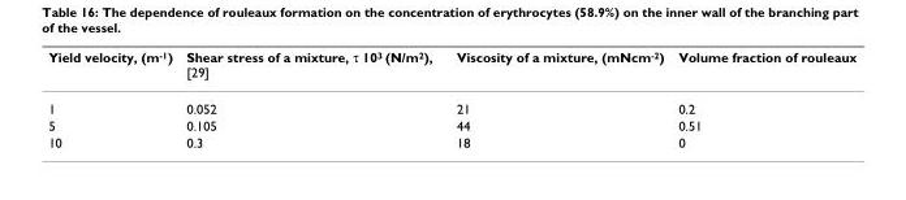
<table><thead><tr><td>Yield velocity, (m<sup>-1</sup>)</td><td>Shear stress of a mixture, τ 10<sup>3</sup> (N/m<sup>2</sup>), [29]</td><td>Viscosity of a mixture, (mNcm<sup>-2</sup>)</td><td>Volume fraction of rouleaux</td></tr></thead><tbody><tr><td>1</td><td>0.052</td><td>21</td><td>0.2</td></tr><tr><td>5</td><td>0.105</td><td>44</td><td>0.51</td></tr><tr><td>10</td><td>0.3</td><td>18</td><td>0</td></tr></tbody></table>